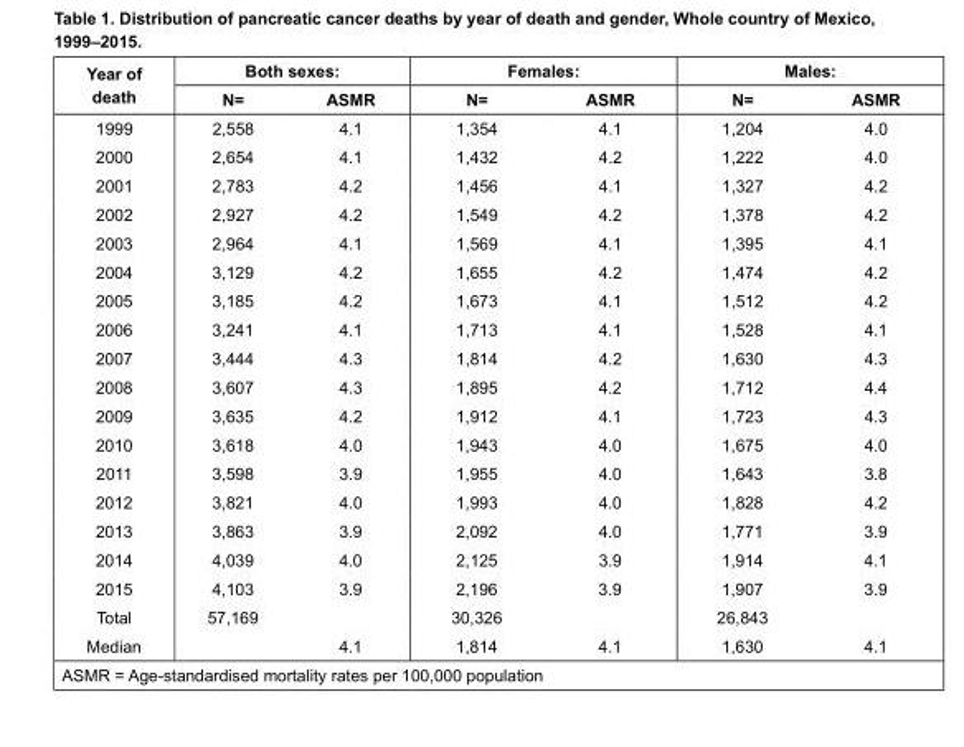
<table><thead><tr><td rowspan="2">Year of death</td><td colspan="2">Both sexes:</td><td colspan="2">Females:</td><td colspan="2">Males:</td></tr><tr><td>N=</td><td>ASMR</td><td>N=</td><td>ASMR</td><td>N=</td><td>ASMR</td></tr></thead><tbody><tr><td>1999</td><td>2,558</td><td>4.1</td><td>1,354</td><td>4.1</td><td>1,204</td><td>4.0</td></tr><tr><td>2000</td><td>2,654</td><td>4.1</td><td>1,432</td><td>4.2</td><td>1,222</td><td>4.0</td></tr><tr><td>2001</td><td>2,783</td><td>4.2</td><td>1,456</td><td>4.1</td><td>1,327</td><td>4.2</td></tr><tr><td>2002</td><td>2,927</td><td>4.2</td><td>1,549</td><td>4.2</td><td>1,378</td><td>4.2</td></tr><tr><td>2003</td><td>2,964</td><td>4.1</td><td>1,569</td><td>4.1</td><td>1,395</td><td>4.1</td></tr><tr><td>2004</td><td>3,129</td><td>4.2</td><td>1,655</td><td>4.2</td><td>1,474</td><td>4.2</td></tr><tr><td>2005</td><td>3,185</td><td>4.2</td><td>1,673</td><td>4.1</td><td>1,512</td><td>4.2</td></tr><tr><td>2006</td><td>3,241</td><td>4.1</td><td>1,713</td><td>4.1</td><td>1,528</td><td>4.1</td></tr><tr><td>2007</td><td>3,444</td><td>4.3</td><td>1,814</td><td>4.2</td><td>1,630</td><td>4.3</td></tr><tr><td>2008</td><td>3,607</td><td>4.3</td><td>1,895</td><td>4.2</td><td>1,712</td><td>4.4</td></tr><tr><td>2009</td><td>3,635</td><td>4.2</td><td>1,912</td><td>4.1</td><td>1,723</td><td>4.3</td></tr><tr><td>2010</td><td>3,618</td><td>4.0</td><td>1,943</td><td>4.0</td><td>1,675</td><td>4.0</td></tr><tr><td>2011</td><td>3,598</td><td>3.9</td><td>1,955</td><td>4.0</td><td>1,643</td><td>3.8</td></tr><tr><td>2012</td><td>3,821</td><td>4.0</td><td>1,993</td><td>4.0</td><td>1,828</td><td>4.2</td></tr><tr><td>2013</td><td>3,863</td><td>3.9</td><td>2,092</td><td>4.0</td><td>1,771</td><td>3.9</td></tr><tr><td>2014</td><td>4,039</td><td>4.0</td><td>2,125</td><td>3.9</td><td>1,914</td><td>4.1</td></tr><tr><td>2015</td><td>4,103</td><td>3.9</td><td>2,196</td><td>3.9</td><td>1,907</td><td>3.9</td></tr><tr><td>Total</td><td>57,169</td><td></td><td>30,326</td><td></td><td>26,843</td><td></td></tr><tr><td>Median</td><td></td><td>4.1</td><td>1,814</td><td>4.1</td><td>1,630</td><td>4.1</td></tr><tr><td colspan="7">ASMR = Age-standardised mortality rates per 100,000 population</td></tr></tbody></table>